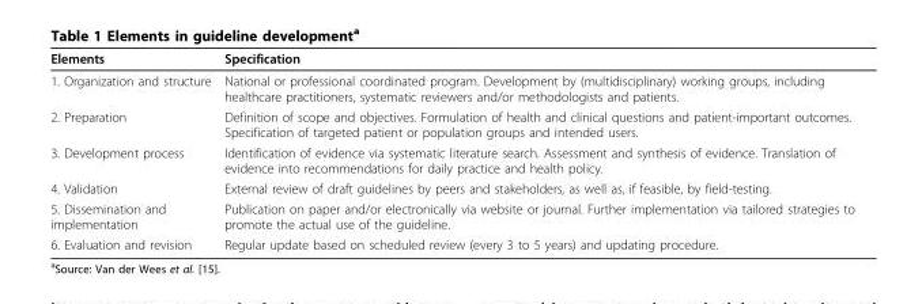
<table><thead><tr><td>Elements</td><td>Specification</td></tr></thead><tbody><tr><td>1. Organization and structure</td><td>National or professional coordinated program. Development by (multidisciplinary) working groups, including healthcare practitioners, systematic reviewers and/or methodologists and patients.</td></tr><tr><td>2. Preparation</td><td>Definition of scope and objectives. Formulation of health and clinical questions and patient-important outcomes. Specification of targeted patient or population groups and intended users.</td></tr><tr><td>3. Development process</td><td>Identification of evidence via systematic literature search. Assessment and synthesis of evidence. Translation of evidence into recommendations for daily practice and health policy.</td></tr><tr><td>4. Validation</td><td>External review of draft guidelines by peers and stakeholders, as well as, if feasible, by field-testing.</td></tr><tr><td>5. Dissemination and implementation</td><td>Publication on paper and/or electronically via website or journal. Further implementation via tailored strategies to promote the actual use of the guideline.</td></tr><tr><td>6. Evaluation and revision</td><td>Regular update based on scheduled review (every 3 to 5 years) and updating procedure.</td></tr></tbody></table>